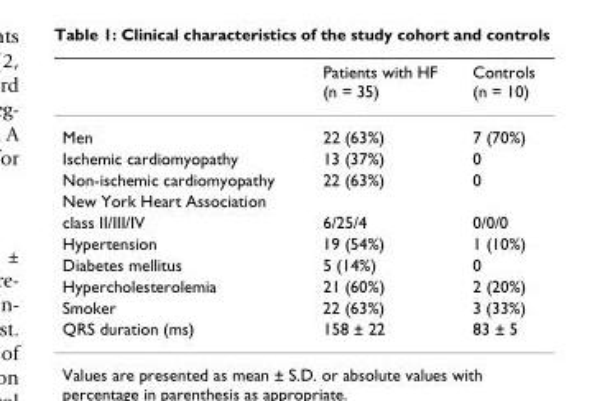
<table><thead><tr><td></td><td>Patients with HF (n = 35)</td><td>Controls (n = 10)</td></tr></thead><tbody><tr><td>Men</td><td>22 (63%)</td><td>7 (70%)</td></tr><tr><td>Ischemic cardiomyopathy</td><td>13 (37%)</td><td>0</td></tr><tr><td>Non-ischemic cardiomyopathy</td><td>22 (63%)</td><td>0</td></tr><tr><td colspan="3">New York Heart Association</td></tr><tr><td>class II/III/IV</td><td>6/25/4</td><td>0/0/0</td></tr><tr><td>Hypertension</td><td>19 (54%)</td><td>1 (10%)</td></tr><tr><td>Diabetes mellitus</td><td>5 (14%)</td><td>0</td></tr><tr><td>Hypercholesterolemia</td><td>21 (60%)</td><td>2 (20%)</td></tr><tr><td>Smoker</td><td>22 (63%)</td><td>3 (33%)</td></tr><tr><td>QRS duration (ms)</td><td>158 ± 22</td><td>83 ± 5</td></tr></tbody></table>